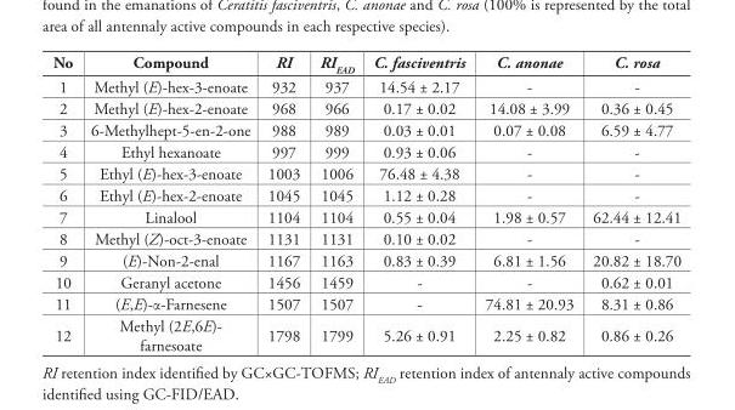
<table><thead><tr><td>No</td><td>Compound</td><td>RI</td><td>RI<sub>EAD</sub></td><td>C. fasciventris</td><td>C. anonae</td><td>C. rosa</td></tr></thead><tbody><tr><td>1</td><td>Methyl (E)-hex-3-enoate</td><td>932</td><td>937</td><td>14.54 ± 2.17</td><td>-</td><td>-</td></tr><tr><td>2</td><td>Methyl (E)-hex-2-enoate</td><td>968</td><td>966</td><td>0.17 ± 0.02</td><td>14.08 ± 3.99</td><td>0.36 ± 0.45</td></tr><tr><td>3</td><td>6-Methylhept-5-en-2-one</td><td>988</td><td>989</td><td>0.03 ± 0.01</td><td>0.07 ± 0.08</td><td>6.59 ± 4.77</td></tr><tr><td>4</td><td>Ethyl hexanoate</td><td>997</td><td>999</td><td>0.93 ± 0.06</td><td>-</td><td>-</td></tr><tr><td>5</td><td>Ethyl (E)-hex-3-enoate</td><td>1003</td><td>1006</td><td>76.48 ± 4.38</td><td>-</td><td>-</td></tr><tr><td>6</td><td>Ethyl (E)-hex-2-enoate</td><td>1045</td><td>1045</td><td>1.12 ± 0.28</td><td>-</td><td>-</td></tr><tr><td>7</td><td>Linalool</td><td>1104</td><td>1104</td><td>0.55 ± 0.04</td><td>1.98 ± 0.57</td><td>62.44 ± 12.41</td></tr><tr><td>8</td><td>Methyl (Z)-oct-3-enoate</td><td>1131</td><td>1131</td><td>0.10 ± 0.02</td><td>-</td><td>-</td></tr><tr><td>9</td><td>(E)-Non-2-enal</td><td>1167</td><td>1163</td><td>0.83 ± 0.39</td><td>6.81 ± 1.56</td><td>20.82 ± 18.70</td></tr><tr><td>10</td><td>Geranyl acetone</td><td>1456</td><td>1459</td><td>-</td><td>-</td><td>0.62 ± 0.01</td></tr><tr><td>11</td><td>(E,E)-α-Farnesene</td><td>1507</td><td>1507</td><td>-</td><td>74.81 ± 20.93</td><td>8.31 ± 0.86</td></tr><tr><td>12</td><td>Methyl (2E,6E)- farnesoate</td><td>1798</td><td>1799</td><td>5.26 ± 0.91</td><td>2.25 ± 0.82</td><td>0.86 ± 0.26</td></tr></tbody></table>